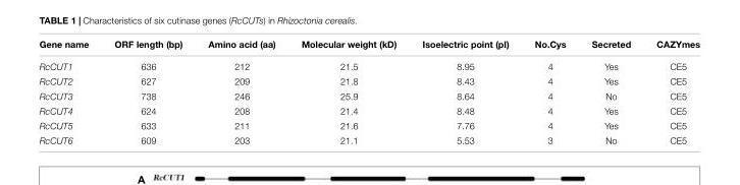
<table><thead><tr><td>Gene name</td><td>ORF length (bp)</td><td>Amino acid (aa)</td><td>Molecular weight (kD)</td><td>Isoelectric point (pI)</td><td>No.Cys</td><td>Secreted</td><td>CAZYmes</td></tr></thead><tbody><tr><td>RcCUT1</td><td>636</td><td>212</td><td>21.5</td><td>8.95</td><td>4</td><td>Yes</td><td>CE5</td></tr><tr><td>RcCUT2</td><td>627</td><td>209</td><td>21.8</td><td>8.43</td><td>4</td><td>Yes</td><td>CE5</td></tr><tr><td>RcCUT3</td><td>738</td><td>246</td><td>25.9</td><td>8.64</td><td>4</td><td>No</td><td>CE5</td></tr><tr><td>RcCUT4</td><td>624</td><td>208</td><td>21.4</td><td>8.48</td><td>4</td><td>Yes</td><td>CE5</td></tr><tr><td>RcCUT5</td><td>633</td><td>211</td><td>21.6</td><td>7.76</td><td>4</td><td>Yes</td><td>CE5</td></tr><tr><td>RcCUT6</td><td>609</td><td>203</td><td>21.1</td><td>5.53</td><td>3</td><td>No</td><td>CE5</td></tr></tbody></table>